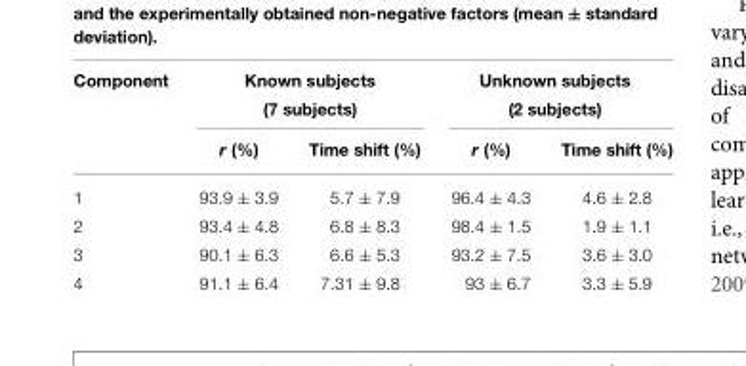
<table><thead><tr><td rowspan="3">Component</td><td rowspan="2" colspan="2">Known subjects (7 subjects)</td><td rowspan="2" colspan="2">Unknown subjects (2 subjects)</td></tr><tr></tr><tr><td>r (%)</td><td>Time shift (%)</td><td>r (%)</td><td>Time shift (%)</td></tr></thead><tbody><tr><td>1</td><td>93.9 ± 3.9</td><td>5.7 ± 7.9</td><td>96.4 ± 4.3</td><td>4.6 ± 2.8</td></tr><tr><td>2</td><td>93.4 ± 4.8</td><td>6.8 ± 8.3</td><td>98.4 ± 1.5</td><td>1.9 ± 1.1</td></tr><tr><td>3</td><td>90.1 ± 6.3</td><td>6.6 ± 5.3</td><td>93.2 ± 7.5</td><td>3.6 ± 3.0</td></tr><tr><td>4</td><td>91.1 ± 6.4</td><td>7.31 ± 9.8</td><td>93 ± 6.7</td><td>3.3 ± 5.9</td></tr></tbody></table>